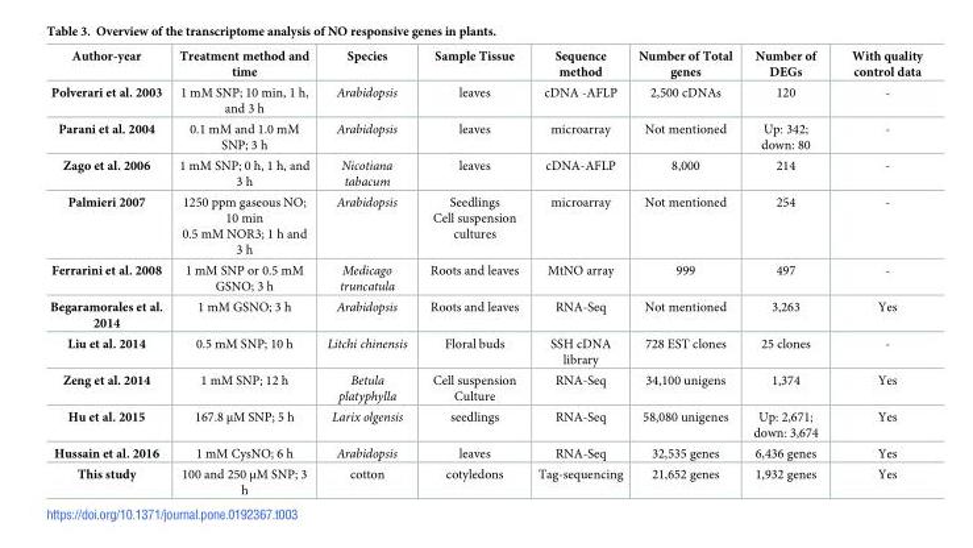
<table><thead><tr><td>Author-year</td><td>Treatment method and time</td><td>Species</td><td>Sample Tissue</td><td>Sequence method</td><td>Number of Total genes</td><td>Number of DEGs</td><td>With quality control data</td></tr></thead><tbody><tr><td>Polverari et al. 2003</td><td>1 mM SNP; 10 min, 1 h, and 3 h</td><td>Arabidopsis</td><td>leaves</td><td>cDNA -AFLP</td><td>2,500 cDNAs</td><td>120</td><td>-</td></tr><tr><td>Parani et al. 2004</td><td>0.1 mM and 1.0 mM SNP; 3 h</td><td>Arabidopsis</td><td>leaves</td><td>microarray</td><td>Not mentioned</td><td>Up: 342; down: 80</td><td>-</td></tr><tr><td>Zago et al. 2006</td><td>1 mM SNP; 0 h, 1 h, and 3 h</td><td>Nicotiana tabacum</td><td>leaves</td><td>cDNA-AFLP</td><td>8,000</td><td>214</td><td>-</td></tr><tr><td>Palmieri 2007</td><td>1250 ppm gaseous NO; 10 min 0.5 mM NOR3; 1 h and 3 h</td><td>Arabidopsis</td><td>Seedlings Cell suspension cultures</td><td>microarray</td><td>Not mentioned</td><td>254</td><td>-</td></tr><tr><td>Ferrarini et al. 2008</td><td>1 mM SNP or 0.5 mM GSNO; 3 h</td><td>Medicago truncatula</td><td>Roots and leaves</td><td>MtNO array</td><td>999</td><td>497</td><td>-</td></tr><tr><td>Begaramorales et al. 2014</td><td>1 mM GSNO; 3 h</td><td>Arabidopsis</td><td>Roots and leaves</td><td>RNA-Seq</td><td>Not mentioned</td><td>3,263</td><td>Yes</td></tr><tr><td>Liu et al. 2014</td><td>0.5 mM SNP; 10 h</td><td>Litchi chinensis</td><td>Floral buds</td><td>SSH cDNA library</td><td>728 EST clones</td><td>25 clones</td><td>-</td></tr><tr><td>Zeng et al. 2014</td><td>1 mM SNP; 12 h</td><td>Betula platyphylla</td><td>Cell suspension Culture</td><td>RNA-Seq</td><td>34,100 unigens</td><td>1,374</td><td>Yes</td></tr><tr><td>Hu et al. 2015</td><td>167.8 μM SNP; 5 h</td><td>Larix olgensis</td><td>seedlings</td><td>RNA-Seq</td><td>58,080 unigenes</td><td>Up: 2,671; down: 3,674</td><td>Yes</td></tr><tr><td>Hussain et al. 2016</td><td>1 mM CysNO; 6 h</td><td>Arabidopsis</td><td>leaves</td><td>RNA-Seq</td><td>32,535 genes</td><td>6,436 genes</td><td>Yes</td></tr><tr><td>This study</td><td>100 and 250 μM SNP; 3 h</td><td>cotton</td><td>cotyledons</td><td>Tag-sequencing</td><td>21,652 genes</td><td>1,932 genes</td><td>Yes</td></tr></tbody></table>